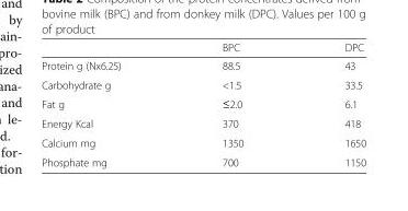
<table><thead><tr><td></td><td>BPC</td><td>DPC</td></tr></thead><tbody><tr><td>Protein g (Nx6.25)</td><td>88.5</td><td>43</td></tr><tr><td>Carbohydrate g</td><td>&lt;1.5</td><td>33.5</td></tr><tr><td>Fat g</td><td>≤2.0</td><td>6.1</td></tr><tr><td>Energy Kcal</td><td>370</td><td>418</td></tr><tr><td>Calcium mg</td><td>1350</td><td>1650</td></tr><tr><td>Phosphate mg</td><td>700</td><td>1150</td></tr></tbody></table>